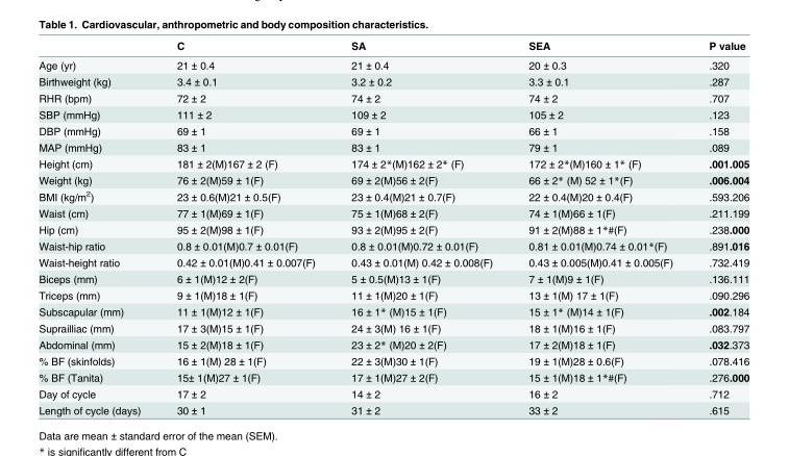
<table><thead><tr><td></td><td>C</td><td>SA</td><td>SEA</td><td>P value</td></tr></thead><tbody><tr><td>Age (yr)</td><td>21 ± 0.4</td><td>21 ± 0.4</td><td>20 ± 0.3</td><td>.320</td></tr><tr><td>Birthweight (kg)</td><td>3.4 ± 0.1</td><td>3.2 ± 0.2</td><td>3.3 ± 0.1</td><td>.287</td></tr><tr><td>RHR (bpm)</td><td>72 ± 2</td><td>74 ± 2</td><td>74 ± 2</td><td>.707</td></tr><tr><td>SBP (mmHg)</td><td>111 ± 2</td><td>109 ± 2</td><td>105 ± 2</td><td>.123</td></tr><tr><td>DBP (mmHg)</td><td>69 ± 1</td><td>69 ± 1</td><td>66 ± 1</td><td>.158</td></tr><tr><td>MAP (mmHg)</td><td>83 ± 1</td><td>83 ± 1</td><td>79 ± 1</td><td>.089</td></tr><tr><td>Height (cm)</td><td>181 ± 2(M)167 ± 2 (F)</td><td>174 ± 2*(M)162 ± 2* (F)</td><td>172 ± 2*(M)160 ± 1* (F)</td><td>.001.005</td></tr><tr><td>Weight (kg)</td><td>76 ± 2(M)59 ± 1(F)</td><td>69 ± 2(M)56 ± 2(F)</td><td>66 ± 2* (M) 52 ± 1*(F)</td><td>.006.004</td></tr><tr><td>BMI (kg/m<sup>2</sup>)</td><td>23 ± 0.6(M)21 ± 0.5(F)</td><td>23 ± 0.4(M)21 ± 0.7(F)</td><td>22 ± 0.4(M)20 ± 0.4(F)</td><td>.593.206</td></tr><tr><td>Waist (cm)</td><td>77 ± 1(M)69 ± 1(F)</td><td>75 ± 1(M)68 ± 2(F)</td><td>74 ± 1(M)66 ± 1(F)</td><td>.211.199</td></tr><tr><td>Hip (cm)</td><td>95 ± 2(M)98 ± 1(F)</td><td>93 ± 2(M)95 ± 2(F)</td><td>91 ± 2(M)88 ± 1*#(F)</td><td>.238.000</td></tr><tr><td>Waist-hip ratio</td><td>0.8 ± 0.01(M)0.7 ± 0.01(F)</td><td>0.8 ± 0.01(M)0.72 ± 0.01(F)</td><td>0.81 ± 0.01(M)0.74 ± 0.01*(F)</td><td>.891.016</td></tr><tr><td>Waist-height ratio</td><td>0.42 ± 0.01(M)0.41 ± 0.007(F)</td><td>0.43 ± 0.01(M) 0.42 ± 0.008(F)</td><td>0.43 ± 0.005(M)0.41 ± 0.005(F)</td><td>.732.419</td></tr><tr><td>Biceps (mm)</td><td>6 ± 1(M)12 ± 2(F)</td><td>5 ± 0.5(M)13 ± 1(F)</td><td>7 ± 1(M)9 ± 1(F)</td><td>.136.111</td></tr><tr><td>Triceps (mm)</td><td>9 ± 1(M)18 ± 1(F)</td><td>11 ± 1(M)20 ± 1(F)</td><td>13 ± 1(M) 17 ± 1(F)</td><td>.090.296</td></tr><tr><td>Subscapular (mm)</td><td>11 ± 1(M)12 ± 1(F)</td><td>16 ± 1* (M)15 ± 1(F)</td><td>15 ± 1* (M)14 ± 1(F)</td><td>.002.184</td></tr><tr><td>Suprailliac (mm)</td><td>17 ± 3(M)15 ± 1(F)</td><td>24 ± 3(M) 16 ± 1(F)</td><td>18 ± 1(M)16 ± 1(F)</td><td>.083.797</td></tr><tr><td>Abdominal (mm)</td><td>15 ± 2(M)18 ± 1(F)</td><td>23 ± 2* (M)20 ± 2(F)</td><td>17 ± 2(M)18 ± 1(F)</td><td>.032.373</td></tr><tr><td>% BF (skinfolds)</td><td>16 ± 1(M) 28 ± 1(F)</td><td>22 ± 3(M)30 ± 1(F)</td><td>19 ± 1(M)28 ± 0.6(F)</td><td>.078.416</td></tr><tr><td>% BF (Tanita)</td><td>15± 1(M)27 ± 1(F)</td><td>17 ± 1(M)27 ± 2(F)</td><td>15 ± 1(M)18 ± 1*#(F)</td><td>.276.000</td></tr><tr><td>Day of cycle</td><td>17 ± 2</td><td>14 ± 2</td><td>16 ± 2</td><td>.712</td></tr><tr><td>Length of cycle (days)</td><td>30 ± 1</td><td>31 ± 2</td><td>33 ± 2</td><td>.615</td></tr></tbody></table>